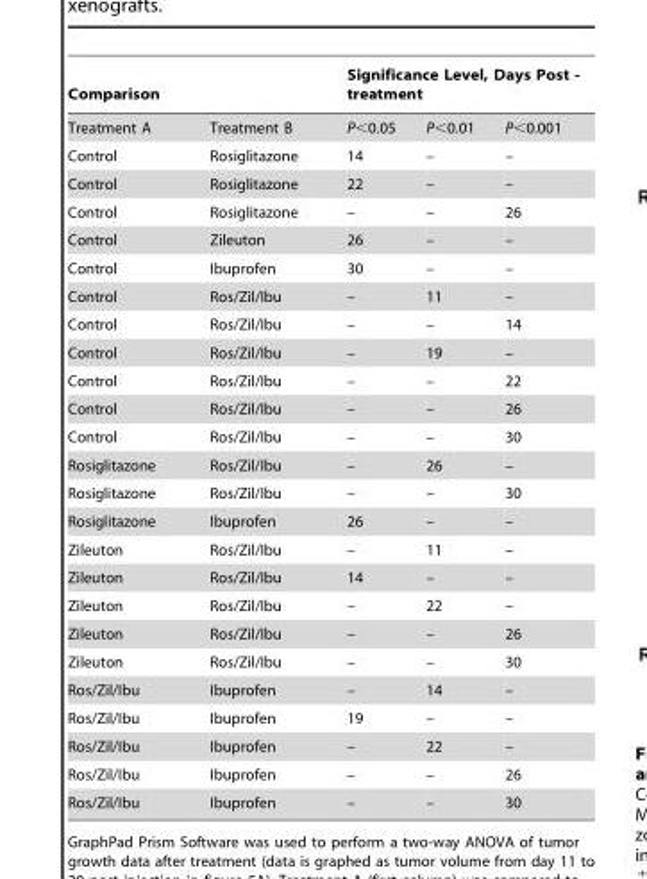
<table><thead><tr><td colspan="2">Comparison</td><td colspan="3">Significance Level, Days Post - treatment</td></tr><tr><td>Treatment A</td><td>Treatment B</td><td>P&lt;0.05</td><td>P&lt;0.01</td><td>P&lt;0.001</td></tr></thead><tbody><tr><td>Control</td><td>Rosiglitazone</td><td>14</td><td>–</td><td>–</td></tr><tr><td>Control</td><td>Rosiglitazone</td><td>22</td><td>–</td><td>–</td></tr><tr><td>Control</td><td>Rosiglitazone</td><td>–</td><td>–</td><td>26</td></tr><tr><td>Control</td><td>Zileuton</td><td>26</td><td>–</td><td>–</td></tr><tr><td>Control</td><td>Ibuprofen</td><td>30</td><td>–</td><td>–</td></tr><tr><td>Control</td><td>Ros/Zil/Ibu</td><td>–</td><td>11</td><td>–</td></tr><tr><td>Control</td><td>Ros/Zil/Ibu</td><td>–</td><td>–</td><td>14</td></tr><tr><td>Control</td><td>Ros/Zil/Ibu</td><td>–</td><td>19</td><td>–</td></tr><tr><td>Control</td><td>Ros/Zil/Ibu</td><td>–</td><td>–</td><td>22</td></tr><tr><td>Control</td><td>Ros/Zil/Ibu</td><td>–</td><td>–</td><td>26</td></tr><tr><td>Control</td><td>Ros/Zil/Ibu</td><td>–</td><td>–</td><td>30</td></tr><tr><td>Rosiglitazone</td><td>Ros/Zil/Ibu</td><td>–</td><td>26</td><td>–</td></tr><tr><td>Rosiglitazone</td><td>Ros/Zil/Ibu</td><td>–</td><td>–</td><td>30</td></tr><tr><td>Rosiglitazone</td><td>Ibuprofen</td><td>26</td><td>–</td><td>–</td></tr><tr><td>Zileuton</td><td>Ros/Zil/Ibu</td><td>–</td><td>11</td><td>–</td></tr><tr><td>Zileuton</td><td>Ros/Zil/Ibu</td><td>14</td><td>–</td><td>–</td></tr><tr><td>Zileuton</td><td>Ros/Zil/Ibu</td><td>–</td><td>22</td><td>–</td></tr><tr><td>Zileuton</td><td>Ros/Zil/Ibu</td><td>–</td><td>–</td><td>26</td></tr><tr><td>Zileuton</td><td>Ros/Zil/Ibu</td><td>–</td><td>–</td><td>30</td></tr><tr><td>Ros/Zil/Ibu</td><td>Ibuprofen</td><td>–</td><td>14</td><td>–</td></tr><tr><td>Ros/Zil/Ibu</td><td>Ibuprofen</td><td>19</td><td>–</td><td>–</td></tr><tr><td>Ros/Zil/Ibu</td><td>Ibuprofen</td><td>–</td><td>22</td><td>–</td></tr><tr><td>Ros/Zil/Ibu</td><td>Ibuprofen</td><td>–</td><td>–</td><td>26</td></tr><tr><td>Ros/Zil/Ibu</td><td>Ibuprofen</td><td>–</td><td>–</td><td>30</td></tr></tbody></table>